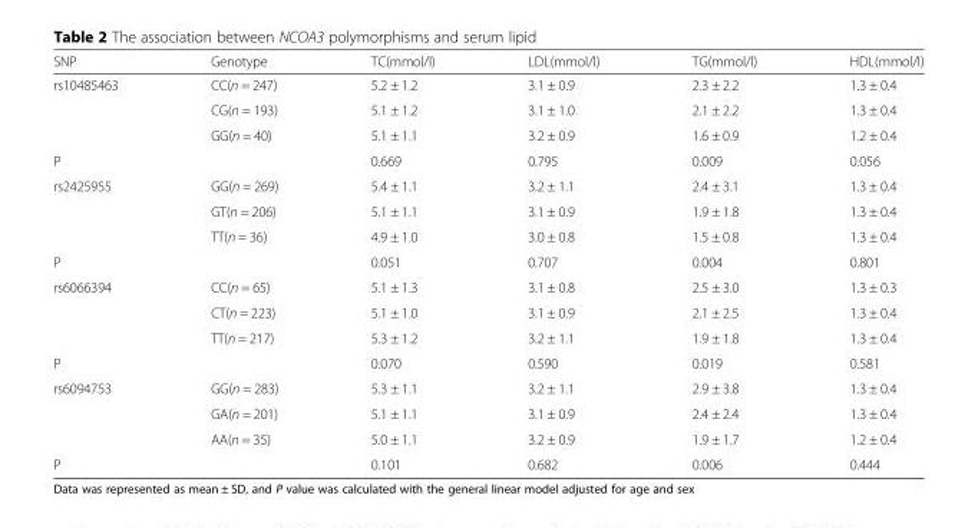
<table><thead><tr><td>SNP</td><td>Genotype</td><td>TC(mmol/l)</td><td>LDL(mmol/l)</td><td>TG(mmol/l)</td><td>HDL(mmol/l)</td></tr></thead><tbody><tr><td rowspan="3">rs10485463</td><td>CC(n = 247)</td><td>5.2 ± 1.2</td><td>3.1 ± 0.9</td><td>2.3 ± 2.2</td><td>1.3 ± 0.4</td></tr><tr><td>CG(n = 193)</td><td>5.1 ± 1.2</td><td>3.1 ± 1.0</td><td>2.1 ± 2.2</td><td>1.3 ± 0.4</td></tr><tr><td>GG(n = 40)</td><td>5.1 ± 1.1</td><td>3.2 ± 0.9</td><td>1.6 ± 0.9</td><td>1.2 ± 0.4</td></tr><tr><td>P</td><td></td><td>0.669</td><td>0.795</td><td>0.009</td><td>0.056</td></tr><tr><td rowspan="3">rs2425955</td><td>GG(n = 269)</td><td>5.4 ± 1.1</td><td>3.2 ± 1.1</td><td>2.4 ± 3.1</td><td>1.3 ± 0.4</td></tr><tr><td>GT(n = 206)</td><td>5.1 ± 1.1</td><td>3.1 ± 0.9</td><td>1.9 ± 1.8</td><td>1.3 ± 0.4</td></tr><tr><td>TT(n = 36)</td><td>4.9 ± 1.0</td><td>3.0 ± 0.8</td><td>1.5 ± 0.8</td><td>1.3 ± 0.4</td></tr><tr><td>P</td><td></td><td>0.051</td><td>0.707</td><td>0.004</td><td>0.801</td></tr><tr><td rowspan="3">rs6066394</td><td>CC(n = 65)</td><td>5.1 ± 1.3</td><td>3.1 ± 0.8</td><td>2.5 ± 3.0</td><td>1.3 ± 0.3</td></tr><tr><td>CT(n = 223)</td><td>5.1 ± 1.0</td><td>3.1 ± 0.9</td><td>2.1 ± 2.5</td><td>1.3 ± 0.4</td></tr><tr><td>TT(n = 217)</td><td>5.3 ± 1.2</td><td>3.2 ± 1.1</td><td>1.9 ± 1.8</td><td>1.3 ± 0.4</td></tr><tr><td>P</td><td></td><td>0.070</td><td>0.590</td><td>0.019</td><td>0.581</td></tr><tr><td rowspan="3">rs6094753</td><td>GG(n = 283)</td><td>5.3 ± 1.1</td><td>3.2 ± 1.1</td><td>2.9 ± 3.8</td><td>1.3 ± 0.4</td></tr><tr><td>GA(n = 201)</td><td>5.1 ± 1.1</td><td>3.1 ± 0.9</td><td>2.4 ± 2.4</td><td>1.3 ± 0.4</td></tr><tr><td>AA(n = 35)</td><td>5.0 ± 1.1</td><td>3.2 ± 0.9</td><td>1.9 ± 1.7</td><td>1.2 ± 0.4</td></tr><tr><td>P</td><td></td><td>0.101</td><td>0.682</td><td>0.006</td><td>0.444</td></tr></tbody></table>